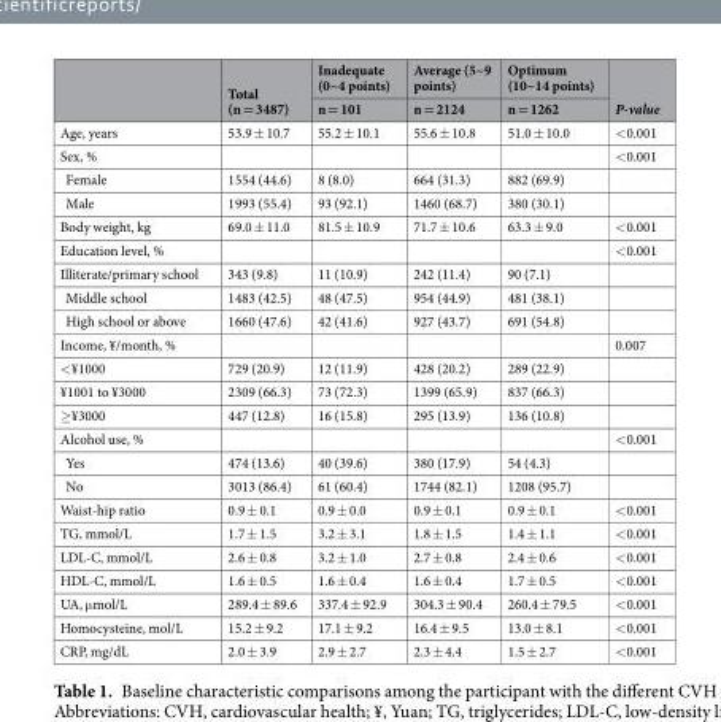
<table><thead><tr><td rowspan="2"></td><td rowspan="2">Total (n = 3487)</td><td rowspan="2">Inadequate (0~4 points) n = 101</td><td rowspan="2">Average (5~9 points) n = 2124</td><td rowspan="2">Optimum (10~14 points) n = 1262</td><td rowspan="2">P-value</td></tr><tr></tr></thead><tbody><tr><td>Age, years</td><td>53.9 ± 10.7</td><td>55.2 ± 10.1</td><td>55.6 ± 10.8</td><td>51.0 ± 10.0</td><td>&lt;0.001</td></tr><tr><td>Sex, %</td><td></td><td></td><td></td><td></td><td>&lt;0.001</td></tr><tr><td>Female</td><td>1554 (44.6)</td><td>8 (8.0)</td><td>664 (31.3)</td><td>882 (69.9)</td><td></td></tr><tr><td>Male</td><td>1993 (55.4)</td><td>93 (92.1)</td><td>1460 (68.7)</td><td>380 (30.1)</td><td></td></tr><tr><td>Body weight, kg</td><td>69.0 ± 11.0</td><td>81.5 ± 10.9</td><td>71.7 ± 10.6</td><td>63.3 ± 9.0</td><td>&lt;0.001</td></tr><tr><td>Education level, %</td><td></td><td></td><td></td><td></td><td>&lt;0.001</td></tr><tr><td>Illiterate/primary school</td><td>343 (9.8)</td><td>11 (10.9)</td><td>242 (11.4)</td><td>90 (7.1)</td><td></td></tr><tr><td>Middle school</td><td>1483 (42.5)</td><td>48 (47.5)</td><td>954 (44.9)</td><td>481 (38.1)</td><td></td></tr><tr><td>High school or above</td><td>1660 (47.6)</td><td>42 (41.6)</td><td>927 (43.7)</td><td>691 (54.8)</td><td></td></tr><tr><td>Income, ¥/month, %</td><td></td><td></td><td></td><td></td><td>0.007</td></tr><tr><td>&lt;¥1000</td><td>729 (20.9)</td><td>12 (11.9)</td><td>428 (20.2)</td><td>289 (22.9)</td><td></td></tr><tr><td>¥1001 to ¥3000</td><td>2309 (66.3)</td><td>73 (72.3)</td><td>1399 (65.9)</td><td>837 (66.3)</td><td></td></tr><tr><td>≥¥3000</td><td>447 (12.8)</td><td>16 (15.8)</td><td>295 (13.9)</td><td>136 (10.8)</td><td></td></tr><tr><td>Alcohol use, %</td><td></td><td></td><td></td><td></td><td>&lt;0.001</td></tr><tr><td>Yes</td><td>474 (13.6)</td><td>40 (39.6)</td><td>380 (17.9)</td><td>54 (4.3)</td><td></td></tr><tr><td>No</td><td>3013 (86.4)</td><td>61 (60.4)</td><td>1744 (82.1)</td><td>1208 (95.7)</td><td></td></tr><tr><td>Waist-hip ratio</td><td>0.9 ± 0.1</td><td>0.9 ± 0.0</td><td>0.9 ± 0.1</td><td>0.9 ± 0.1</td><td>&lt;0.001</td></tr><tr><td>TG, mmol/L</td><td>1.7 ± 1.5</td><td>3.2 ± 3.1</td><td>1.8 ± 1.5</td><td>1.4 ± 1.1</td><td>&lt;0.001</td></tr><tr><td>LDL-C, mmol/L</td><td>2.6 ± 0.8</td><td>3.2 ± 1.0</td><td>2.7 ± 0.8</td><td>2.4 ± 0.6</td><td>&lt;0.001</td></tr><tr><td>HDL-C, mmol/L</td><td>1.6 ± 0.5</td><td>1.6 ± 0.4</td><td>1.6 ± 0.4</td><td>1.7 ± 0.5</td><td>&lt;0.001</td></tr><tr><td>UA, μmol/L</td><td>289.4 ± 89.6</td><td>337.4 ± 92.9</td><td>304.3 ± 90.4</td><td>260.4 ± 79.5</td><td>&lt;0.001</td></tr><tr><td>Homocysteine, mol/L</td><td>15.2 ± 9.2</td><td>17.1 ± 9.2</td><td>16.4 ± 9.5</td><td>13.0 ± 8.1</td><td>&lt;0.001</td></tr><tr><td>CRP, mg/dL</td><td>2.0 ± 3.9</td><td>2.9 ± 2.7</td><td>2.3 ± 4.4</td><td>1.5 ± 2.7</td><td>&lt;0.001</td></tr></tbody></table>